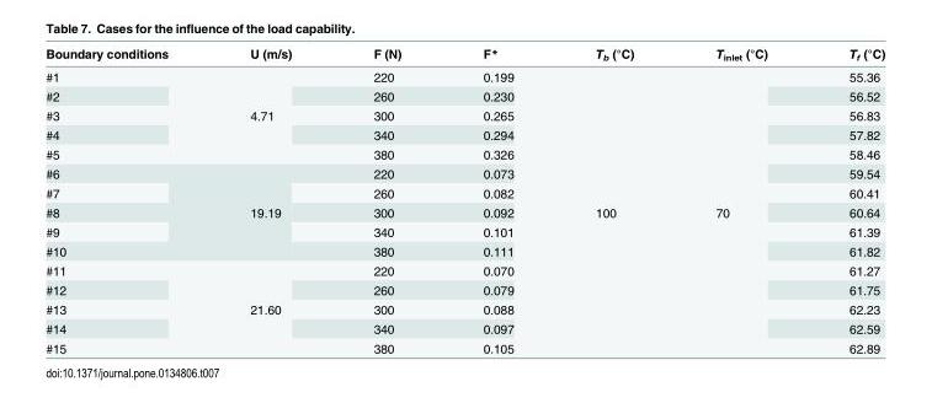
<table><thead><tr><td>Boundary conditions</td><td>U (m/s)</td><td>F (N)</td><td>F*</td><td>T<sub>b</sub> (°C)</td><td>T<sub>inlet</sub> (°C)</td><td>T<sub>f</sub> (°C)</td></tr></thead><tbody><tr><td>#1</td><td rowspan="5">4.71</td><td>220</td><td>0.199</td><td rowspan="15">100</td><td rowspan="15">70</td><td>55.36</td></tr><tr><td>#2</td><td>260</td><td>0.230</td><td>56.52</td></tr><tr><td>#3</td><td>300</td><td>0.265</td><td>56.83</td></tr><tr><td>#4</td><td>340</td><td>0.294</td><td>57.82</td></tr><tr><td>#5</td><td>380</td><td>0.326</td><td>58.46</td></tr><tr><td>#6</td><td rowspan="5">19.19</td><td>220</td><td>0.073</td><td>59.54</td></tr><tr><td>#7</td><td>260</td><td>0.082</td><td>60.41</td></tr><tr><td>#8</td><td>300</td><td>0.092</td><td>60.64</td></tr><tr><td>#9</td><td>340</td><td>0.101</td><td>61.39</td></tr><tr><td>#10</td><td>380</td><td>0.111</td><td>61.82</td></tr><tr><td>#11</td><td rowspan="5">21.60</td><td>220</td><td>0.070</td><td>61.27</td></tr><tr><td>#12</td><td>260</td><td>0.079</td><td>61.75</td></tr><tr><td>#13</td><td>300</td><td>0.088</td><td>62.23</td></tr><tr><td>#14</td><td>340</td><td>0.097</td><td>62.59</td></tr><tr><td>#15</td><td>380</td><td>0.105</td><td>62.89</td></tr></tbody></table>